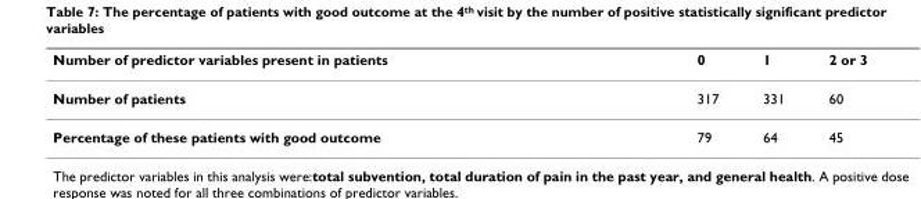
<table><thead><tr><td>Number of predictor variables present in patients</td><td>0</td><td>1</td><td>2 or 3</td></tr></thead><tbody><tr><td>Number of patients</td><td>317</td><td>331</td><td>60</td></tr><tr><td>Percentage of these patients with good outcome</td><td>79</td><td>64</td><td>45</td></tr></tbody></table>